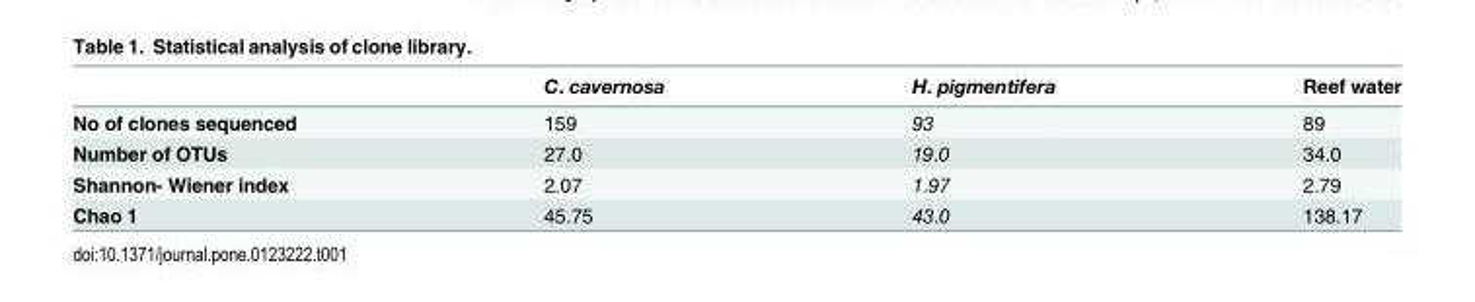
<table><thead><tr><td></td><td>C. cavernosa</td><td>H. pigmentifera</td><td>Reef water</td></tr></thead><tbody><tr><td>No of clones sequenced</td><td>159</td><td>93</td><td>89</td></tr><tr><td>Number of OTUs</td><td>27.0</td><td>19.0</td><td>34.0</td></tr><tr><td>Shannon- Wiener index</td><td>2.07</td><td>1.97</td><td>2.79</td></tr><tr><td>Chao 1</td><td>45.75</td><td>43.0</td><td>138.17</td></tr></tbody></table>